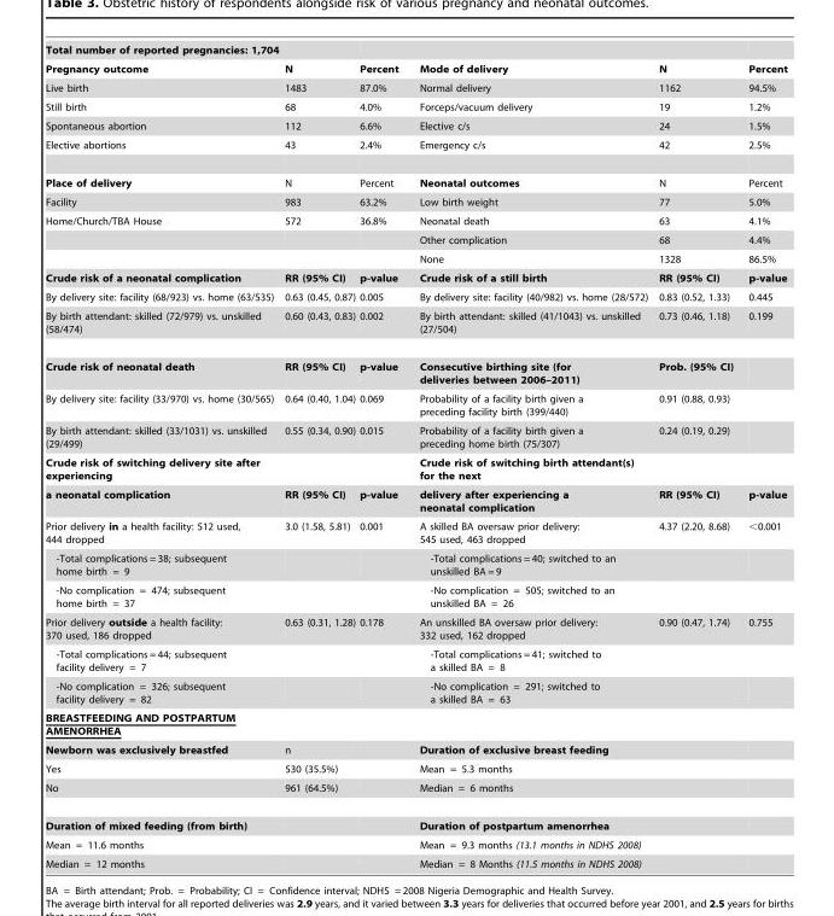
<table><tbody><tr><td colspan="6">Total number of reported pregnancies: 1,704</td></tr><tr><td>Pregnancy outcome</td><td>N</td><td>Percent</td><td>Mode of delivery</td><td>N</td><td>Percent</td></tr><tr><td>Live birth</td><td>1483</td><td>87.0%</td><td>Normal delivery</td><td>1162</td><td>94.5%</td></tr><tr><td>Still birth</td><td>68</td><td>4.0%</td><td>Forceps/vacuum delivery</td><td>19</td><td>1.2%</td></tr><tr><td>Spontaneous abortion</td><td>112</td><td>6.6%</td><td>Elective c/s</td><td>24</td><td>1.5%</td></tr><tr><td>Elective abortions</td><td>43</td><td>2.4%</td><td>Emergency c/s</td><td>42</td><td>2.5%</td></tr><tr><td>Place of delivery</td><td>N</td><td>Percent</td><td>Neonatal outcomes</td><td>N</td><td>Percent</td></tr><tr><td>Facility</td><td>983</td><td>63.2%</td><td>Low birth weight</td><td>77</td><td>5.0%</td></tr><tr><td rowspan="3">Home/Church/TBA House</td><td>572</td><td>36.8%</td><td>Neonatal death</td><td>63</td><td>4.1%</td></tr><tr><td></td><td></td><td>Other complication</td><td>68</td><td>4.4%</td></tr><tr><td></td><td></td><td>None</td><td>1328</td><td>86.5%</td></tr><tr><td>Crude risk of a neonatal complication</td><td>RR (95% CI)</td><td>p-value</td><td>Crude risk of a still birth</td><td>RR (95% CI)</td><td>p-value</td></tr><tr><td>By delivery site: facility (68/923) vs. home (63/535)</td><td>0.63 (0.45, 0.87)</td><td>0.005</td><td>By delivery site: facility (40/982) vs. home (28/572)</td><td>0.83 (0.52, 1.33)</td><td>0.445</td></tr><tr><td>By birth attendant: skilled (72/979) vs. unskilled (58/474)</td><td>0.60 (0.43, 0.83)</td><td>0.002</td><td>By birth attendant: skilled (41/1043) vs. unskilled (27/504)</td><td>0.73 (0.46, 1.18)</td><td>0.199</td></tr><tr><td>Crude risk of neonatal death</td><td>RR (95% CI)</td><td>p-value</td><td>Consecutive birthing site (for deliveries between 2006–2011)</td><td>Prob. (95% CI)</td><td></td></tr><tr><td>By delivery site: facility (33/970) vs. home (30/565)</td><td>0.64 (0.40, 1.04)</td><td>0.069</td><td>Probability of a facility birth given a preceding facility birth (399/440)</td><td>0.91 (0.88, 0.93)</td><td></td></tr><tr><td>By birth attendant: skilled (33/1031) vs. unskilled (29/499)</td><td>0.55 (0.34, 0.90)</td><td>0.015</td><td>Probability of a facility birth given a preceding home birth (75/307)</td><td>0.24 (0.19, 0.29)</td><td></td></tr><tr><td>Crude risk of switching delivery site after experiencing</td><td></td><td></td><td>Crude risk of switching birth attendant(s) for the next</td><td></td><td></td></tr><tr><td>a neonatal complication</td><td>RR (95% CI)</td><td>p-value</td><td>delivery after experiencing a neonatal complication</td><td>RR (95% CI)</td><td>p-value</td></tr><tr><td>Prior delivery in a health facility: 512 used, 444 dropped</td><td>3.0 (1.58, 5.81)</td><td>0.001</td><td>A skilled BA oversaw prior delivery: 545 used, 463 dropped</td><td>4.37 (2.20, 8.68)</td><td>&lt;0.001</td></tr><tr><td>-Total complications = 38; subsequent home birth = 9</td><td></td><td></td><td>-Total complications = 40; switched to an unskilled BA = 9</td><td></td><td></td></tr><tr><td>-No complication = 474; subsequent home birth = 37</td><td></td><td></td><td>-No complication = 505; switched to an unskilled BA = 26</td><td></td><td></td></tr><tr><td>Prior delivery outside a health facility: 370 used, 186 dropped</td><td>0.63 (0.31, 1.28)</td><td>0.178</td><td>An unskilled BA oversaw prior delivery: 332 used, 162 dropped</td><td>0.90 (0.47, 1.74)</td><td>0.755</td></tr><tr><td>-Total complications = 44; subsequent facility delivery = 7</td><td></td><td></td><td>-Total complications = 41; switched to a skilled BA = 8</td><td></td><td></td></tr><tr><td>-No complication = 326; subsequent facility delivery = 82</td><td></td><td></td><td>-No complication = 291; switched to a skilled BA = 63</td><td></td><td></td></tr><tr><td colspan="6">BREASTFEEDING AND POSTPARTUM AMENORRHEA</td></tr><tr><td>Newborn was exclusively breastfed</td><td>n</td><td></td><td>Duration of exclusive breast feeding</td><td></td><td></td></tr><tr><td>Yes</td><td>530 (35.5%)</td><td></td><td>Mean = 5.3 months</td><td></td><td></td></tr><tr><td>No</td><td>961 (64.5%)</td><td></td><td>Median = 6 months</td><td></td><td></td></tr><tr><td>Duration of mixed feeding (from birth)</td><td></td><td></td><td>Duration of postpartum amenorrhea</td><td></td><td></td></tr><tr><td>Mean = 11.6 months</td><td></td><td></td><td>Mean = 9.3 months (13.1 months in NDHS 2008)</td><td></td><td></td></tr><tr><td>Median = 12 months</td><td></td><td></td><td>Median = 8 Months (11.5 months in NDHS 2008)</td><td></td><td></td></tr></tbody></table>